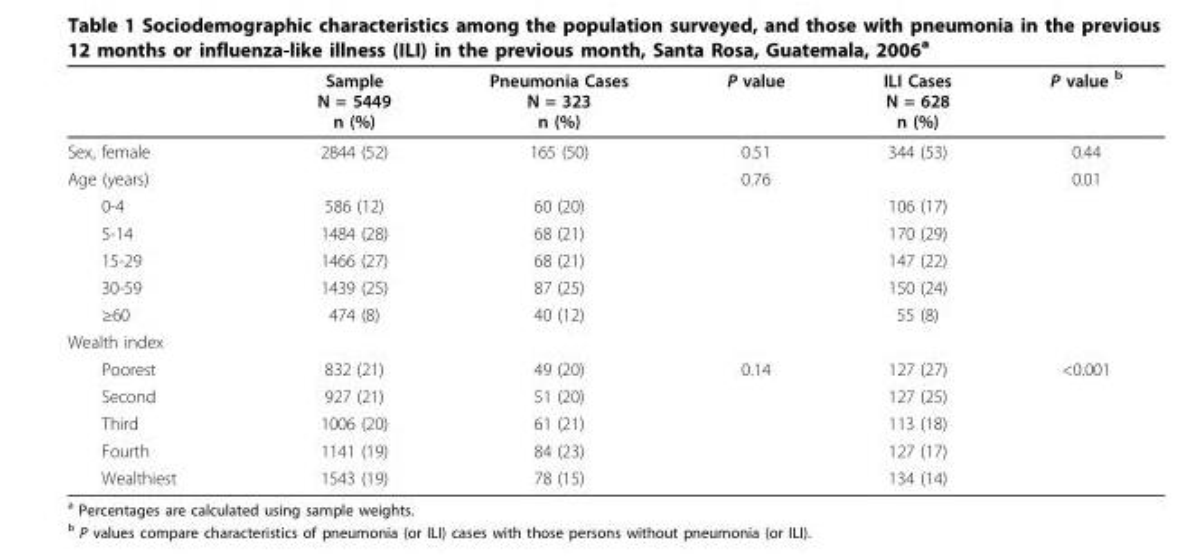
<table><thead><tr><td></td><td>Sample N = 5449 n (%)</td><td>Pneumonia Cases N = 323 n (%)</td><td>P value</td><td>ILI Cases N = 628 n (%)</td><td>P value <sup>b</sup></td></tr></thead><tbody><tr><td>Sex, female</td><td>2844 (52)</td><td>165 (50)</td><td>0.51</td><td>344 (53)</td><td>0.44</td></tr><tr><td>Age (years)</td><td></td><td></td><td>0.76</td><td></td><td>0.01</td></tr><tr><td>0-4</td><td>586 (12)</td><td>60 (20)</td><td></td><td>106 (17)</td><td></td></tr><tr><td>5-14</td><td>1484 (28)</td><td>68 (21)</td><td></td><td>170 (29)</td><td></td></tr><tr><td>15-29</td><td>1466 (27)</td><td>68 (21)</td><td></td><td>147 (22)</td><td></td></tr><tr><td>30-59</td><td>1439 (25)</td><td>87 (25)</td><td></td><td>150 (24)</td><td></td></tr><tr><td>≥60</td><td>474 (8)</td><td>40 (12)</td><td></td><td>55 (8)</td><td></td></tr><tr><td colspan="6">Wealth index</td></tr><tr><td>Poorest</td><td>832 (21)</td><td>49 (20)</td><td>0.14</td><td>127 (27)</td><td>&lt;0.001</td></tr><tr><td>Second</td><td>927 (21)</td><td>51 (20)</td><td></td><td>127 (25)</td><td></td></tr><tr><td>Third</td><td>1006 (20)</td><td>61 (21)</td><td></td><td>113 (18)</td><td></td></tr><tr><td>Fourth</td><td>1141 (19)</td><td>84 (23)</td><td></td><td>127 (17)</td><td></td></tr><tr><td>Wealthiest</td><td>1543 (19)</td><td>78 (15)</td><td></td><td>134 (14)</td><td></td></tr></tbody></table>